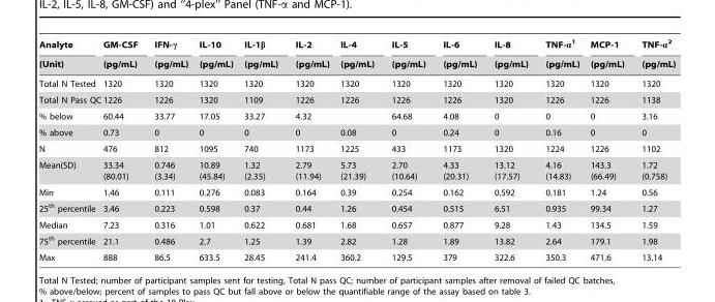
<table><thead><tr><td rowspan="2">Analyte (Unit)</td><td rowspan="2">GM-CSF (pg/mL)</td><td rowspan="2">IFN-γ (pg/mL)</td><td rowspan="2">IL-10 (pg/mL)</td><td rowspan="2">IL-1β (pg/mL)</td><td rowspan="2">IL-2 (pg/mL)</td><td rowspan="2">IL-4 (pg/mL)</td><td rowspan="2">IL-5 (pg/mL)</td><td rowspan="2">IL-6 (pg/mL)</td><td rowspan="2">IL-8 (pg/mL)</td><td rowspan="2">TNF-α<sup>1</sup> (pg/mL)</td><td rowspan="2">MCP-1 (pg/mL)</td><td rowspan="2">TNF-α<sup>2</sup> (pg/mL)</td></tr><tr></tr></thead><tbody><tr><td>Total N Tested</td><td>1320</td><td>1320</td><td>1320</td><td>1320</td><td>1320</td><td>1320</td><td>1320</td><td>1320</td><td>1320</td><td>1320</td><td>1320</td><td>1320</td></tr><tr><td>Total N Pass QC</td><td>1226</td><td>1226</td><td>1320</td><td>1109</td><td>1226</td><td>1226</td><td>1226</td><td>1226</td><td>1320</td><td>1226</td><td>1226</td><td>1138</td></tr><tr><td>% below</td><td>60.44</td><td>33.77</td><td>17.05</td><td>33.27</td><td>4.32</td><td></td><td>64.68</td><td>4.08</td><td>0</td><td>0</td><td>0</td><td>3.16</td></tr><tr><td>% above</td><td>0.73</td><td>0</td><td>0</td><td>0</td><td>0</td><td>0.08</td><td>0</td><td>0.24</td><td>0</td><td>0.16</td><td>0</td><td>0</td></tr><tr><td>N</td><td>476</td><td>812</td><td>1095</td><td>740</td><td>1173</td><td>1225</td><td>433</td><td>1173</td><td>1320</td><td>1224</td><td>1226</td><td>1102</td></tr><tr><td>Mean(SD)</td><td>33.34 (80.01)</td><td>0.746 (3.34)</td><td>10.89 (45.84)</td><td>1.32 (2.35)</td><td>2.79 (11.94)</td><td>5.73 (21.39)</td><td>2.70 (10.64)</td><td>4.33 (20.31)</td><td>13.12 (17.57)</td><td>4.16 (14.83)</td><td>143.3 (66.49)</td><td>1.72 (0.758)</td></tr><tr><td>Min</td><td>1.46</td><td>0.111</td><td>0.276</td><td>0.083</td><td>0.164</td><td>0.39</td><td>0.254</td><td>0.162</td><td>0.592</td><td>0.181</td><td>1.24</td><td>0.56</td></tr><tr><td>25<sup>th</sup> percentile</td><td>3.46</td><td>0.223</td><td>0.598</td><td>0.37</td><td>0.44</td><td>1.26</td><td>0.454</td><td>0.515</td><td>6.51</td><td>0.935</td><td>99.34</td><td>1.27</td></tr><tr><td>Median</td><td>7.23</td><td>0.316</td><td>1.01</td><td>0.622</td><td>0.681</td><td>1.68</td><td>0.657</td><td>0.877</td><td>9.28</td><td>1.43</td><td>134.5</td><td>1.59</td></tr><tr><td>75<sup>th</sup> percentile</td><td>21.1</td><td>0.486</td><td>2.7</td><td>1.25</td><td>1.39</td><td>2.82</td><td>1.28</td><td>1.89</td><td>13.82</td><td>2.64</td><td>179.1</td><td>1.98</td></tr><tr><td>Max</td><td>888</td><td>86.5</td><td>633.5</td><td>28.45</td><td>241.4</td><td>360.2</td><td>129.5</td><td>379</td><td>322.6</td><td>350.3</td><td>471.6</td><td>13.14</td></tr></tbody></table>